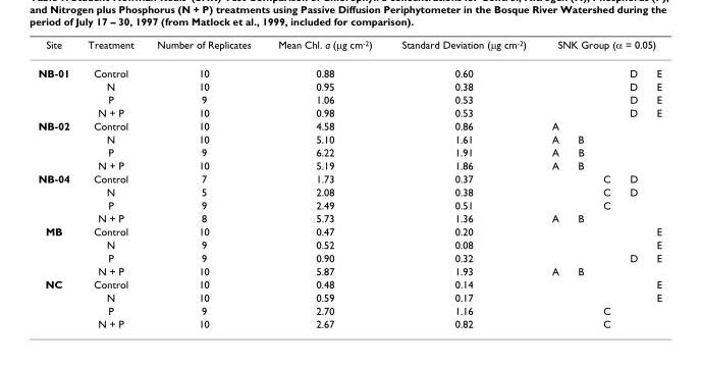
<table><thead><tr><td rowspan="2">Site NB-01</td><td rowspan="2">Treatment Control</td><td rowspan="2">Number of Replicates 10</td><td rowspan="2">Mean Chl. a (μg cm<sup>-2</sup>) 0.88</td><td rowspan="2">Standard Deviation (μg cm<sup>-2</sup>) 0.60</td><td colspan="5">SNK Group (α = 0.05)</td></tr><tr><td></td><td></td><td></td><td>D</td><td>E</td></tr></thead><tbody><tr><td></td><td>N</td><td>10</td><td>0.95</td><td>0.38</td><td></td><td></td><td></td><td>D</td><td>E</td></tr><tr><td></td><td>P</td><td>9</td><td>1.06</td><td>0.53</td><td></td><td></td><td></td><td>D</td><td>E</td></tr><tr><td></td><td>N + P</td><td>10</td><td>0.98</td><td>0.53</td><td></td><td></td><td></td><td>D</td><td>E</td></tr><tr><td rowspan="4">NB-02</td><td>Control</td><td>10</td><td>4.58</td><td>0.86</td><td>A</td><td></td><td></td><td></td><td></td></tr><tr><td>N</td><td>10</td><td>5.10</td><td>1.61</td><td>A</td><td>B</td><td></td><td></td><td></td></tr><tr><td>P</td><td>9</td><td>6.22</td><td>1.91</td><td>A</td><td>B</td><td></td><td></td><td></td></tr><tr><td>N + P</td><td>10</td><td>5.19</td><td>1.86</td><td>A</td><td>B</td><td></td><td></td><td></td></tr><tr><td rowspan="4">NB-04</td><td>Control</td><td>7</td><td>1.73</td><td>0.37</td><td></td><td></td><td>C</td><td>D</td><td></td></tr><tr><td>N</td><td>5</td><td>2.08</td><td>0.38</td><td></td><td></td><td>C</td><td>D</td><td></td></tr><tr><td>P</td><td>9</td><td>2.49</td><td>0.51</td><td></td><td></td><td>C</td><td></td><td></td></tr><tr><td>N + P</td><td>8</td><td>5.73</td><td>1.36</td><td>A</td><td>B</td><td></td><td></td><td></td></tr><tr><td rowspan="4">MB</td><td>Control</td><td>10</td><td>0.47</td><td>0.20</td><td></td><td></td><td></td><td></td><td>E</td></tr><tr><td>N</td><td>9</td><td>0.52</td><td>0.08</td><td></td><td></td><td></td><td></td><td>E</td></tr><tr><td>P</td><td>9</td><td>0.90</td><td>0.32</td><td></td><td></td><td></td><td>D</td><td>E</td></tr><tr><td>N + P</td><td>10</td><td>5.87</td><td>1.93</td><td>A</td><td>B</td><td></td><td></td><td></td></tr><tr><td rowspan="4">NC</td><td>Control</td><td>10</td><td>0.48</td><td>0.14</td><td></td><td></td><td></td><td></td><td>E</td></tr><tr><td>N</td><td>10</td><td>0.59</td><td>0.17</td><td></td><td></td><td></td><td></td><td>E</td></tr><tr><td>P</td><td>9</td><td>2.70</td><td>1.16</td><td></td><td></td><td>C</td><td></td><td></td></tr><tr><td>N + P</td><td>10</td><td>2.67</td><td>0.82</td><td></td><td></td><td>C</td><td></td><td></td></tr></tbody></table>